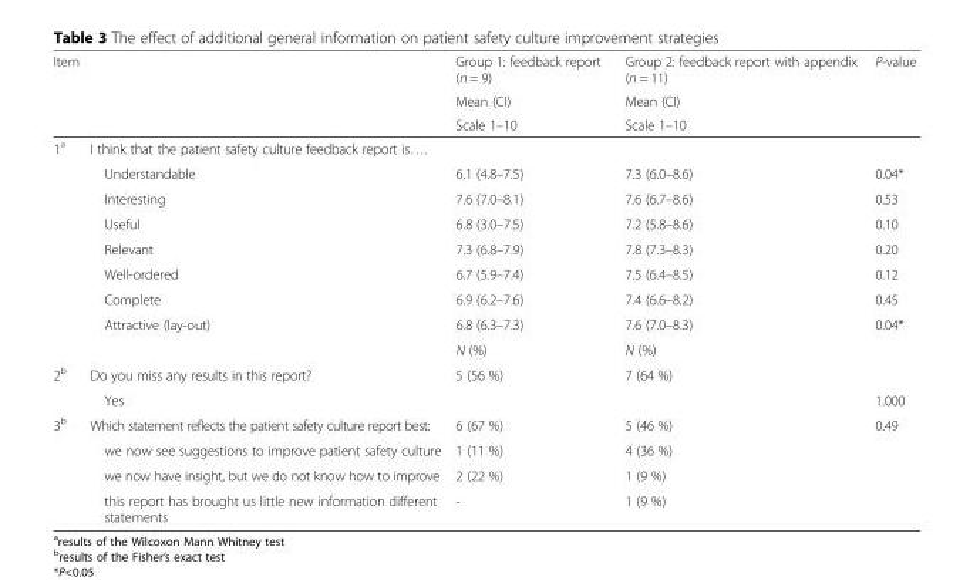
<table><thead><tr><td rowspan="3">Item</td><td rowspan="3"></td><td rowspan="3">Group 1: feedback report (n = 9) Mean (CI) Scale 1–10</td><td rowspan="3">Group 2: feedback report with appendix (n = 11) Mean (CI) Scale 1–10</td><td rowspan="3">P-value</td></tr><tr></tr><tr></tr></thead><tbody><tr><td rowspan="9">1<sup>a</sup></td><td>I think that the patient safety culture feedback report is….</td><td></td><td></td><td></td></tr><tr><td>Understandable</td><td>6.1 (4.8–7.5)</td><td>7.3 (6.0–8.6)</td><td>0.04*</td></tr><tr><td>Interesting</td><td>7.6 (7.0–8.1)</td><td>7.6 (6.7–8.6)</td><td>0.53</td></tr><tr><td>Useful</td><td>6.8 (3.0–7.5)</td><td>7.2 (5.8–8.6)</td><td>0.10</td></tr><tr><td>Relevant</td><td>7.3 (6.8–7.9)</td><td>7.8 (7.3–8.3)</td><td>0.20</td></tr><tr><td>Well-ordered</td><td>6.7 (5.9–7.4)</td><td>7.5 (6.4–8.5)</td><td>0.12</td></tr><tr><td>Complete</td><td>6.9 (6.2–7.6)</td><td>7.4 (6.6–8.2)</td><td>0.45</td></tr><tr><td>Attractive (lay-out)</td><td>6.8 (6.3–7.3)</td><td>7.6 (7.0–8.3)</td><td>0.04*</td></tr><tr><td></td><td>N (%)</td><td>N (%)</td><td></td></tr><tr><td rowspan="2">2<sup>b</sup></td><td>Do you miss any results in this report?</td><td>5 (56 %)</td><td>7 (64 %)</td><td></td></tr><tr><td>Yes</td><td></td><td></td><td>1.000</td></tr><tr><td rowspan="4">3<sup>b</sup></td><td>Which statement reflects the patient safety culture report best:</td><td>6 (67 %)</td><td>5 (46 %)</td><td>0.49</td></tr><tr><td>we now see suggestions to improve patient safety culture</td><td>1 (11 %)</td><td>4 (36 %)</td><td></td></tr><tr><td>we now have insight, but we do not know how to improve</td><td>2 (22 %)</td><td>1 (9 %)</td><td></td></tr><tr><td>this report has brought us little new information different statements</td><td>-</td><td>1 (9 %)</td><td></td></tr></tbody></table>